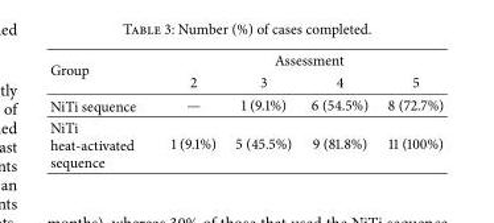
<table><thead><tr><td rowspan="2">Group</td><td colspan="4">Assessment</td></tr><tr><td>2</td><td>3</td><td>4</td><td>5</td></tr></thead><tbody><tr><td>NiTi sequence</td><td>—</td><td>1 (9.1%)</td><td>6 (54.5%)</td><td>8 (72.7%)</td></tr><tr><td>NiTi heat-activated sequence</td><td>1 (9.1%)</td><td>5 (45.5%)</td><td>9 (81.8%)</td><td>11 (100%)</td></tr></tbody></table>